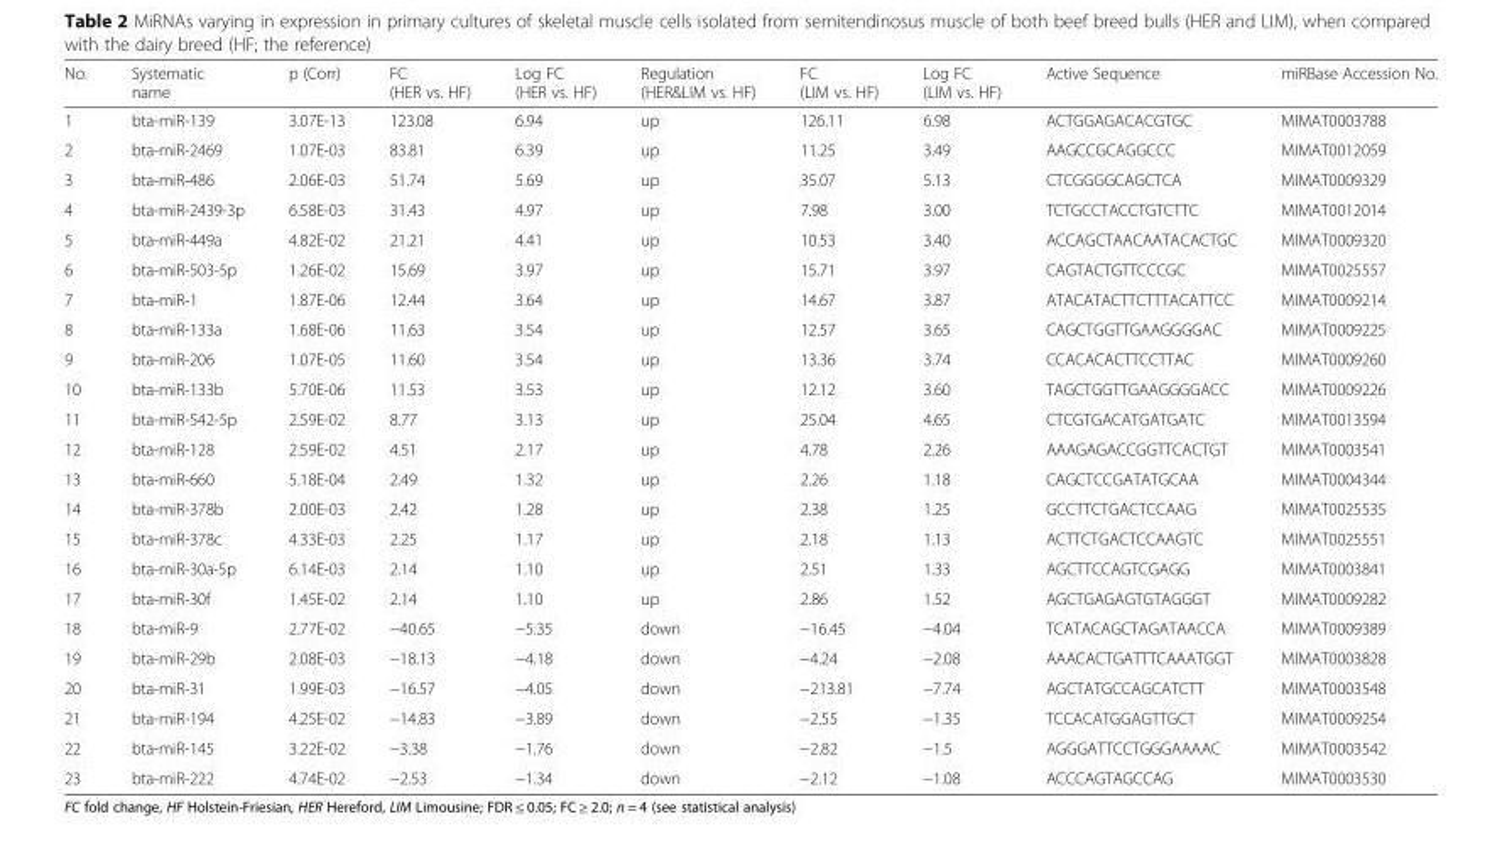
<table><thead><tr><td>No.</td><td>Systematic name</td><td>p (Corr)</td><td>FC (HER vs. HF)</td><td>Log FC (HER vs. HF)</td><td>Regulation (HER&amp;LIM vs. HF)</td><td>FC (LIM vs. HF)</td><td>Log FC (LIM vs. HF)</td><td>Active Sequence</td><td>miRBase Accession No.</td></tr></thead><tbody><tr><td>1</td><td>bta-miR-139</td><td>3.07E-13</td><td>123.08</td><td>6.94</td><td>up</td><td>126.11</td><td>6.98</td><td>ACTGGAGACACGTGC</td><td>MIMAT0003788</td></tr><tr><td>2</td><td>bta-miR-2469</td><td>1.07E-03</td><td>83.81</td><td>6.39</td><td>up</td><td>11.25</td><td>3.49</td><td>AAGCCGCAGGCCC</td><td>MIMAT0012059</td></tr><tr><td>3</td><td>bta-miR-486</td><td>2.06E-03</td><td>51.74</td><td>5.69</td><td>up</td><td>35.07</td><td>5.13</td><td>CTCGGGGCAGCTCA</td><td>MIMAT0009329</td></tr><tr><td>4</td><td>bta-miR-2439-3p</td><td>6.58E-03</td><td>31.43</td><td>4.97</td><td>up</td><td>7.98</td><td>3.00</td><td>TCTGCCTACCTGTCTTC</td><td>MIMAT0012014</td></tr><tr><td>5</td><td>bta-miR-449a</td><td>4.82E-02</td><td>21.21</td><td>4.41</td><td>up</td><td>10.53</td><td>3.40</td><td>ACCAGCTAACAATACACTGC</td><td>MIMAT0009320</td></tr><tr><td>6</td><td>bta-miR-503-5p</td><td>1.26E-02</td><td>15.69</td><td>3.97</td><td>up</td><td>15.71</td><td>3.97</td><td>CAGTACTGTTCCCGC</td><td>MIMAT0025557</td></tr><tr><td>7</td><td>bta-miR-1</td><td>1.87E-06</td><td>12.44</td><td>3.64</td><td>up</td><td>14.67</td><td>3.87</td><td>ATACATACTTCTTTACATTCC</td><td>MIMAT0009214</td></tr><tr><td>8</td><td>bta-miR-133a</td><td>1.68E-06</td><td>11.63</td><td>3.54</td><td>up</td><td>12.57</td><td>3.65</td><td>CAGCTGGTTGAAGGGGAC</td><td>MIMAT0009225</td></tr><tr><td>9</td><td>bta-miR-206</td><td>1.07E-05</td><td>11.60</td><td>3.54</td><td>up</td><td>13.36</td><td>3.74</td><td>CCACACACTTCCTTAC</td><td>MIMAT0009260</td></tr><tr><td>10</td><td>bta-miR-133b</td><td>5.70E-06</td><td>11.53</td><td>3.53</td><td>up</td><td>12.12</td><td>3.60</td><td>TAGCTGGTTGAAGGGGACC</td><td>MIMAT0009226</td></tr><tr><td>11</td><td>bta-miR-542-5p</td><td>2.59E-02</td><td>8.77</td><td>3.13</td><td>up</td><td>25.04</td><td>4.65</td><td>CTCGTGACATGATGATC</td><td>MIMAT0013594</td></tr><tr><td>12</td><td>bta-miR-128</td><td>2.59E-02</td><td>4.51</td><td>2.17</td><td>up</td><td>4.78</td><td>2.26</td><td>AAAGAGACCGGTTCACTGT</td><td>MIMAT0003541</td></tr><tr><td>13</td><td>bta-miR-660</td><td>5.18E-04</td><td>2.49</td><td>1.32</td><td>up</td><td>2.26</td><td>1.18</td><td>CAGCTCCGATATGCAA</td><td>MIMAT0004344</td></tr><tr><td>14</td><td>bta-miR-378b</td><td>2.00E-03</td><td>2.42</td><td>1.28</td><td>up</td><td>2.38</td><td>1.25</td><td>GCCTTCTGACTCCAAG</td><td>MIMAT0025535</td></tr><tr><td>15</td><td>bta-miR-378c</td><td>4.33E-03</td><td>2.25</td><td>1.17</td><td>up</td><td>2.18</td><td>1.13</td><td>ACTTCTGACTCCAAGTC</td><td>MIMAT0025551</td></tr><tr><td>16</td><td>bta-miR-30a-5p</td><td>6.14E-03</td><td>2.14</td><td>1.10</td><td>up</td><td>2.51</td><td>1.33</td><td>AGCTTCCAGTCGAGG</td><td>MIMAT0003841</td></tr><tr><td>17</td><td>bta-miR-30f</td><td>1.45E-02</td><td>2.14</td><td>1.10</td><td>up</td><td>2.86</td><td>1.52</td><td>AGCTGAGAGTGTAGGGT</td><td>MIMAT0009282</td></tr><tr><td>18</td><td>bta-miR-9</td><td>2.77E-02</td><td>−40.65</td><td>−5.35</td><td>down</td><td>−16.45</td><td>−4.04</td><td>TCATACAGCTAGATAACCA</td><td>MIMAT0009389</td></tr><tr><td>19</td><td>bta-miR-29b</td><td>2.08E-03</td><td>−18.13</td><td>−4.18</td><td>down</td><td>−4.24</td><td>−2.08</td><td>AAACACTGATTTCAAATGGT</td><td>MIMAT0003828</td></tr><tr><td>20</td><td>bta-miR-31</td><td>1.99E-03</td><td>−16.57</td><td>−4.05</td><td>down</td><td>−213.81</td><td>−7.74</td><td>AGCTATGCCAGCATCTT</td><td>MIMAT0003548</td></tr><tr><td>21</td><td>bta-miR-194</td><td>4.25E-02</td><td>−14.83</td><td>−3.89</td><td>down</td><td>−2.55</td><td>−1.35</td><td>TCCACATGGAGTTGCT</td><td>MIMAT0009254</td></tr><tr><td>22</td><td>bta-miR-145</td><td>3.22E-02</td><td>−3.38</td><td>−1.76</td><td>down</td><td>−2.82</td><td>−1.5</td><td>AGGGATTCCTGGGAAAAC</td><td>MIMAT0003542</td></tr><tr><td>23</td><td>bta-miR-222</td><td>4.74E-02</td><td>−2.53</td><td>−1.34</td><td>down</td><td>−2.12</td><td>−1.08</td><td>ACCCAGTAGCCAG</td><td>MIMAT0003530</td></tr></tbody></table>